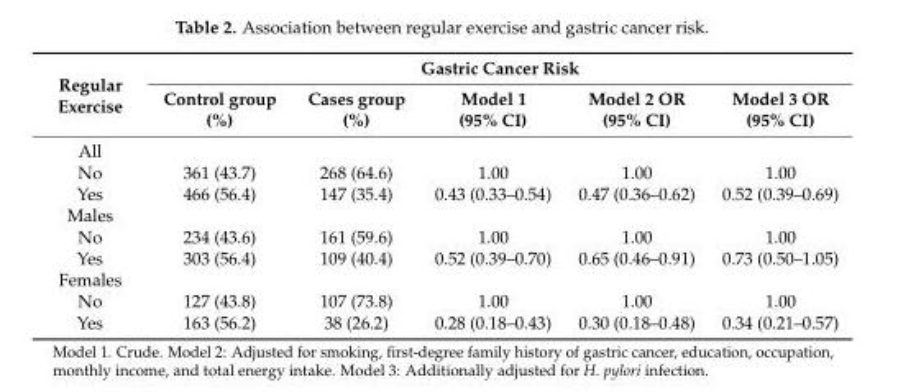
<table><thead><tr><td rowspan="2">Regular Exercise</td><td colspan="5">Gastric Cancer Risk</td></tr><tr><td>Control group (%)</td><td>Cases group (%)</td><td>Model 1 (95% CI)</td><td>Model 2 OR (95% CI)</td><td>Model 3 OR (95% CI)</td></tr></thead><tbody><tr><td colspan="6">All</td></tr><tr><td>No</td><td>361 (43.7)</td><td>268 (64.6)</td><td>1.00</td><td>1.00</td><td>1.00</td></tr><tr><td>Yes</td><td>466 (56.4)</td><td>147 (35.4)</td><td>0.43 (0.33–0.54)</td><td>0.47 (0.36–0.62)</td><td>0.52 (0.39–0.69)</td></tr><tr><td colspan="6">Males</td></tr><tr><td>No</td><td>234 (43.6)</td><td>161 (59.6)</td><td>1.00</td><td>1.00</td><td>1.00</td></tr><tr><td>Yes</td><td>303 (56.4)</td><td>109 (40.4)</td><td>0.52 (0.39–0.70)</td><td>0.65 (0.46–0.91)</td><td>0.73 (0.50–1.05)</td></tr><tr><td colspan="6">Females</td></tr><tr><td>No</td><td>127 (43.8)</td><td>107 (73.8)</td><td>1.00</td><td>1.00</td><td>1.00</td></tr><tr><td>Yes</td><td>163 (56.2)</td><td>38 (26.2)</td><td>0.28 (0.18–0.43)</td><td>0.30 (0.18–0.48)</td><td>0.34 (0.21–0.57)</td></tr></tbody></table>